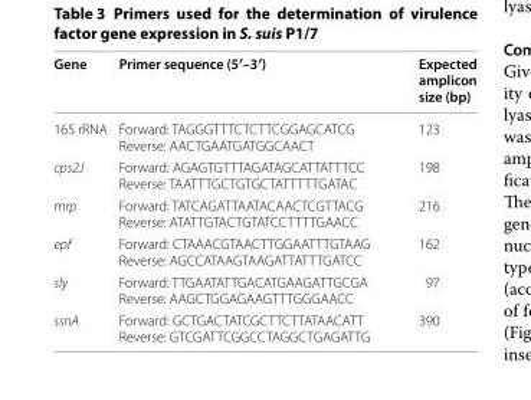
<table><thead><tr><td>Gene</td><td>Primer sequence (5′–3′)</td><td>Expected amplicon size (bp)</td></tr></thead><tbody><tr><td>16S rRNA</td><td>Forward: TAGGGTTTCTCTTCGGAGCATCG Reverse: AACTGAATGATGGCAACT</td><td>123</td></tr><tr><td>cps2J</td><td>Forward: AGAGTGTTTAGATAGCATTATTTCC Reverse: TAATTTGCTGTGCTATTTTTGATAC</td><td>198</td></tr><tr><td>mrp</td><td>Forward: TATCAGATTAATACAACTCGTTACG Reverse: ATATTGTACTGTATCCTTTTGAACC</td><td>216</td></tr><tr><td>epf</td><td>Forward: CTAAACGTAACTTGGAATTTGTAAG Reverse: AGCCATAAGTAAGATTATTTGATCC</td><td>162</td></tr><tr><td>sly</td><td>Forward: TTGAATATTGACATGAAGATTGCGA Reverse: AAGCTGGAGAAGTTTGGGAACC</td><td>97</td></tr><tr><td>ssnA</td><td>Forward: GCTGACTATCGCTTCTTATAACATT Reverse: GTCGATTCGGCCTAGGCTGAGATTG</td><td>390</td></tr></tbody></table>